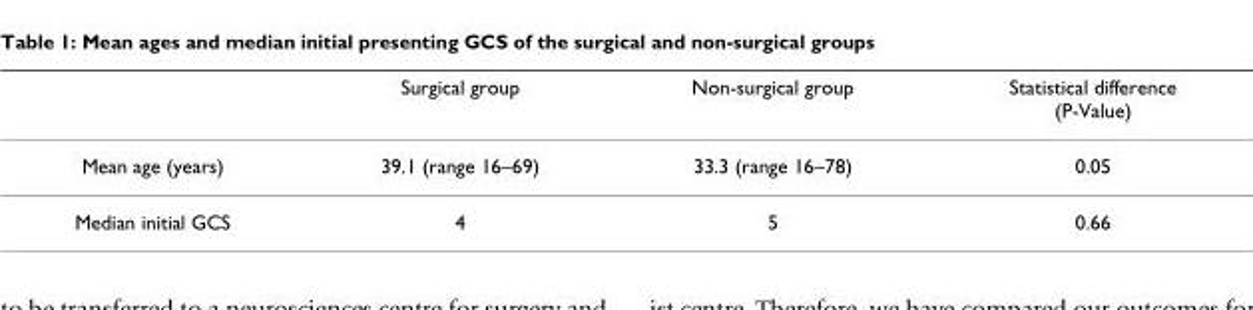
<table><thead><tr><td></td><td>Surgical group</td><td>Non-surgical group</td><td>Statistical difference (P-Value)</td></tr></thead><tbody><tr><td>Mean age (years)</td><td>39.1 (range 16–69)</td><td>33.3 (range 16–78)</td><td>0.05</td></tr><tr><td>Median initial GCS</td><td>4</td><td>5</td><td>0.66</td></tr></tbody></table>